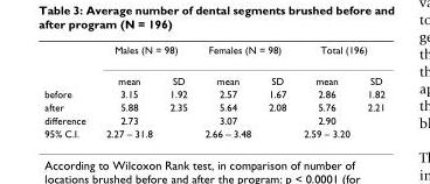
<table><thead><tr><td rowspan="2"></td><td colspan="2">Males (N = 98)</td><td colspan="2">Females (N = 98)</td><td colspan="2">Total (196)</td></tr><tr><td>mean</td><td>SD</td><td>mean</td><td>SD</td><td>mean</td><td>SD</td></tr></thead><tbody><tr><td>before</td><td>3.15</td><td>1.92</td><td>2.57</td><td>1.67</td><td>2.86</td><td>1.82</td></tr><tr><td>after</td><td>5.88</td><td>2.35</td><td>5.64</td><td>2.08</td><td>5.76</td><td>2.21</td></tr><tr><td>difference</td><td>2.73</td><td></td><td>3.07</td><td></td><td>2.90</td><td></td></tr><tr><td>95% C.I.</td><td>2.27 – 31.8</td><td></td><td>2.66 – 3.48</td><td></td><td>2.59 – 3.20</td><td></td></tr></tbody></table>